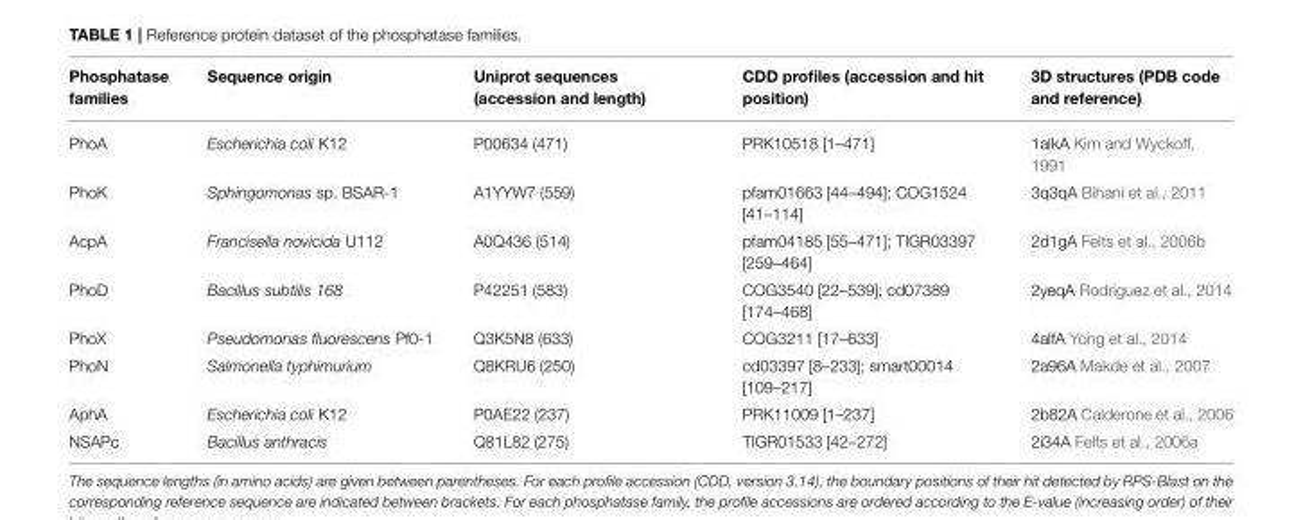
<table><thead><tr><td>Phosphatase families</td><td>Sequence origin</td><td>Uniprot sequences (accession and length)</td><td>CDD profiles (accession and hit position)</td><td>3D structures (PDB code and reference)</td></tr></thead><tbody><tr><td>PhoA</td><td>Escherichia coli K12</td><td>P00634 (471)</td><td>PRK10518 [1–471]</td><td>1alkA Kim and Wyckoff, 1991</td></tr><tr><td>PhoK</td><td>Sphingomonas sp. BSAR-1</td><td>A1YYW7 (559)</td><td>pfam01663 [44–494]; COG1524 [41–114]</td><td>3q3qA Bihani et al., 2011</td></tr><tr><td>AcpA</td><td>Francisella novicida U112</td><td>A0Q436 (514)</td><td>pfam04185 [55–471]; TIGR03397 [259–464]</td><td>2d1gA Felts et al., 2006b</td></tr><tr><td>PhoD</td><td>Bacillus subtilis 168</td><td>P42251 (583)</td><td>COG3540 [22–539]; cd07389 [174–468]</td><td>2yeqA Rodriguez et al., 2014</td></tr><tr><td>PhoX</td><td>Pseudomonas fluorescens Pf0-1</td><td>Q3K5N8 (633)</td><td>COG3211 [17–633]</td><td>4alfA Yong et al., 2014</td></tr><tr><td>PhoN</td><td>Salmonella typhimurium</td><td>Q8KRU6 (250)</td><td>cd03397 [8–233]; smart00014 [109–217]</td><td>2a96A Makde et al., 2007</td></tr><tr><td>AphA</td><td>Escherichia coli K12</td><td>P0AE22 (237)</td><td>PRK11009 [1–237]</td><td>2b82A Calderone et al., 2006</td></tr><tr><td>NSAPc</td><td>Bacillus anthracis</td><td>Q81L82 (275)</td><td>TIGR01533 [42–272]</td><td>2i34A Felts et al., 2006a</td></tr></tbody></table>